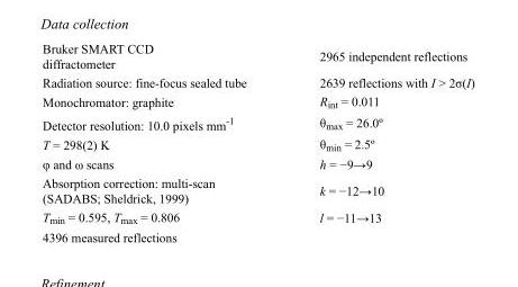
<table><tbody><tr><td>Bruker SMART CCD diffractometer</td><td>2965 independent reflections</td></tr><tr><td>Radiation source: fine-focus sealed tube</td><td>2639 reflections with I &gt; 2σ(I)</td></tr><tr><td>Monochromator: graphite</td><td>R<sub>int</sub> = 0.011</td></tr><tr><td>Detector resolution: 10.0 pixels mm<sup>-1</sup></td><td>θ<sub>max</sub> = 26.0º</td></tr><tr><td>T = 298(2) K</td><td>θ<sub>min</sub> = 2.5º</td></tr><tr><td>φ and ω scans</td><td>h = −9→9</td></tr><tr><td>Absorption correction: multi-scan (SADABS; Sheldrick, 1999)</td><td>k = −12→10</td></tr><tr><td>T<sub>min</sub> = 0.595, T<sub>max</sub> = 0.806</td><td>l = −11→13</td></tr><tr><td>4396 measured reflections</td><td></td></tr></tbody></table>